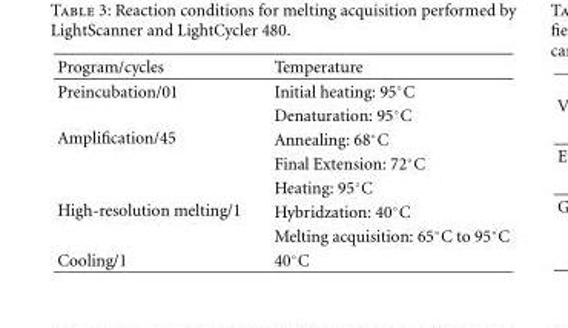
<table><thead><tr><td>Program/cycles</td><td>Temperature</td></tr></thead><tbody><tr><td>Preincubation/01</td><td>Initial heating: 95◦C</td></tr><tr><td rowspan="3">Amplification/45</td><td>Denaturation: 95◦C</td></tr><tr><td>Annealing: 68◦C</td></tr><tr><td>Final Extension: 72◦C</td></tr><tr><td rowspan="3">High-resolution melting/1</td><td>Heating: 95◦C</td></tr><tr><td>Hybridzation: 40◦C</td></tr><tr><td>Melting acquisition: 65◦C to 95◦C</td></tr><tr><td>Cooling/1</td><td>40◦C</td></tr></tbody></table>